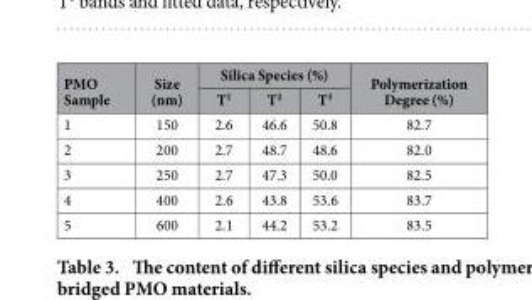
<table><thead><tr><td rowspan="2">PMO Sample</td><td rowspan="2">Size (nm)</td><td colspan="3">Silica Species (%)</td><td rowspan="2">Polymerization Degree (%)</td></tr><tr><td>T<sup>1</sup></td><td>T<sup>2</sup></td><td>T<sup>3</sup></td></tr></thead><tbody><tr><td>1</td><td>150</td><td>2.6</td><td>46.6</td><td>50.8</td><td>82.7</td></tr><tr><td>2</td><td>200</td><td>2.7</td><td>48.7</td><td>48.6</td><td>82.0</td></tr><tr><td>3</td><td>250</td><td>2.7</td><td>47.3</td><td>50.0</td><td>82.5</td></tr><tr><td>4</td><td>400</td><td>2.6</td><td>43.8</td><td>53.6</td><td>83.7</td></tr><tr><td>5</td><td>600</td><td>2.1</td><td>44.2</td><td>53.2</td><td>83.5</td></tr></tbody></table>